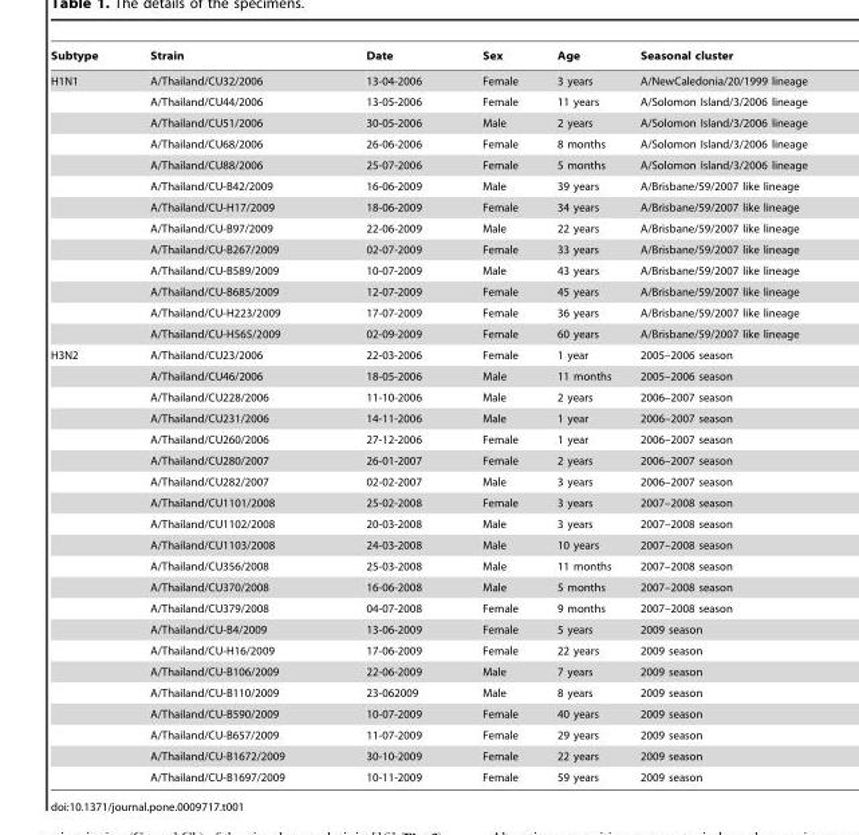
<table><thead><tr><td>Subtype</td><td>Strain</td><td>Date</td><td>Sex</td><td>Age</td><td>Seasonal cluster</td></tr></thead><tbody><tr><td rowspan="13">H1N1</td><td>A/Thailand/CU32/2006</td><td>13-04-2006</td><td>Female</td><td>3 years</td><td>A/NewCaledonia/20/1999 lineage</td></tr><tr><td>A/Thailand/CU44/2006</td><td>13-05-2006</td><td>Female</td><td>11 years</td><td>A/Solomon Island/3/2006 lineage</td></tr><tr><td>A/Thailand/CU51/2006</td><td>30-05-2006</td><td>Male</td><td>2 years</td><td>A/Solomon Island/3/2006 lineage</td></tr><tr><td>A/Thailand/CU68/2006</td><td>26-06-2006</td><td>Female</td><td>8 months</td><td>A/Solomon Island/3/2006 lineage</td></tr><tr><td>A/Thailand/CU88/2006</td><td>25-07-2006</td><td>Female</td><td>5 months</td><td>A/Solomon Island/3/2006 lineage</td></tr><tr><td>A/Thailand/CU-B42/2009</td><td>16-06-2009</td><td>Male</td><td>39 years</td><td>A/Brisbane/59/2007 like lineage</td></tr><tr><td>A/Thailand/CU-H17/2009</td><td>18-06-2009</td><td>Female</td><td>34 years</td><td>A/Brisbane/59/2007 like lineage</td></tr><tr><td>A/Thailand/CU-B97/2009</td><td>22-06-2009</td><td>Male</td><td>22 years</td><td>A/Brisbane/59/2007 like lineage</td></tr><tr><td>A/Thailand/CU-B267/2009</td><td>02-07-2009</td><td>Female</td><td>33 years</td><td>A/Brisbane/59/2007 like lineage</td></tr><tr><td>A/Thailand/CU-B589/2009</td><td>10-07-2009</td><td>Male</td><td>43 years</td><td>A/Brisbane/59/2007 like lineage</td></tr><tr><td>A/Thailand/CU-B685/2009</td><td>12-07-2009</td><td>Female</td><td>45 years</td><td>A/Brisbane/59/2007 like lineage</td></tr><tr><td>A/Thailand/CU-H223/2009</td><td>17-07-2009</td><td>Female</td><td>36 years</td><td>A/Brisbane/59/2007 like lineage</td></tr><tr><td>A/Thailand/CU-H565/2009</td><td>02-09-2009</td><td>Female</td><td>60 years</td><td>A/Brisbane/59/2007 like lineage</td></tr><tr><td rowspan="21">H3N2</td><td>A/Thailand/CU23/2006</td><td>22-03-2006</td><td>Female</td><td>1 year</td><td>2005–2006 season</td></tr><tr><td>A/Thailand/CU46/2006</td><td>18-05-2006</td><td>Male</td><td>11 months</td><td>2005–2006 season</td></tr><tr><td>A/Thailand/CU228/2006</td><td>11-10-2006</td><td>Male</td><td>2 years</td><td>2006–2007 season</td></tr><tr><td>A/Thailand/CU231/2006</td><td>14-11-2006</td><td>Male</td><td>1 year</td><td>2006–2007 season</td></tr><tr><td>A/Thailand/CU260/2006</td><td>27-12-2006</td><td>Female</td><td>1 year</td><td>2006–2007 season</td></tr><tr><td>A/Thailand/CU280/2007</td><td>26-01-2007</td><td>Female</td><td>2 years</td><td>2006–2007 season</td></tr><tr><td>A/Thailand/CU282/2007</td><td>02-02-2007</td><td>Male</td><td>3 years</td><td>2006–2007 season</td></tr><tr><td>A/Thailand/CU1101/2008</td><td>25-02-2008</td><td>Female</td><td>3 years</td><td>2007–2008 season</td></tr><tr><td>A/Thailand/CU1102/2008</td><td>20-03-2008</td><td>Male</td><td>3 years</td><td>2007–2008 season</td></tr><tr><td>A/Thailand/CU1103/2008</td><td>24-03-2008</td><td>Male</td><td>10 years</td><td>2007–2008 season</td></tr><tr><td>A/Thailand/CU356/2008</td><td>25-03-2008</td><td>Male</td><td>11 months</td><td>2007–2008 season</td></tr><tr><td>A/Thailand/CU370/2008</td><td>16-06-2008</td><td>Male</td><td>5 months</td><td>2007–2008 season</td></tr><tr><td>A/Thailand/CU379/2008</td><td>04-07-2008</td><td>Female</td><td>9 months</td><td>2007–2008 season</td></tr><tr><td>A/Thailand/CU-B4/2009</td><td>13-06-2009</td><td>Female</td><td>5 years</td><td>2009 season</td></tr><tr><td>A/Thailand/CU-H16/2009</td><td>17-06-2009</td><td>Female</td><td>22 years</td><td>2009 season</td></tr><tr><td>A/Thailand/CU-B106/2009</td><td>22-06-2009</td><td>Male</td><td>7 years</td><td>2009 season</td></tr><tr><td>A/Thailand/CU-B110/2009</td><td>23-062009</td><td>Male</td><td>8 years</td><td>2009 season</td></tr><tr><td>A/Thailand/CU-B590/2009</td><td>10-07-2009</td><td>Female</td><td>40 years</td><td>2009 season</td></tr><tr><td>A/Thailand/CU-B657/2009</td><td>11-07-2009</td><td>Female</td><td>29 years</td><td>2009 season</td></tr><tr><td>A/Thailand/CU-B1672/2009</td><td>30-10-2009</td><td>Female</td><td>22 years</td><td>2009 season</td></tr><tr><td>A/Thailand/CU-B1697/2009</td><td>10-11-2009</td><td>Female</td><td>59 years</td><td>2009 season</td></tr></tbody></table>